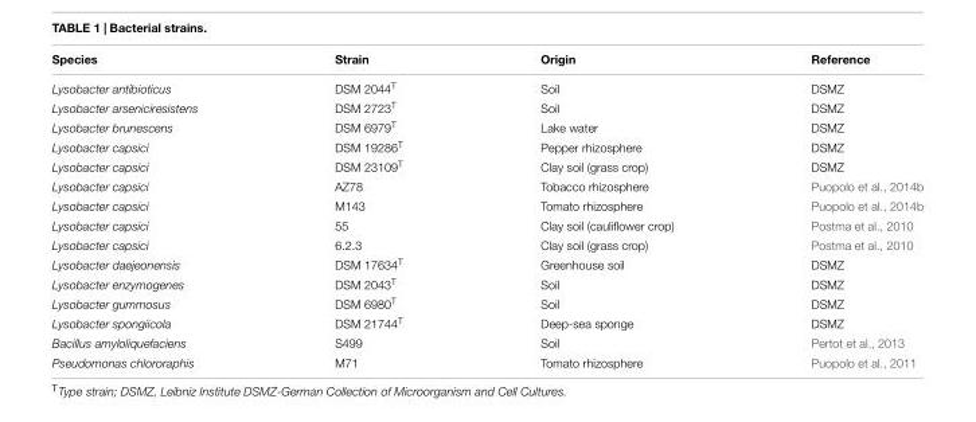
<table><thead><tr><td>Species</td><td>Strain</td><td>Origin</td><td>Reference</td></tr></thead><tbody><tr><td>Lysobacter antibioticus</td><td>DSM 2044<sup>T</sup></td><td>Soil</td><td>DSMZ</td></tr><tr><td>Lysobacter arseniciresistens</td><td>DSM 2723<sup>T</sup></td><td>Soil</td><td>DSMZ</td></tr><tr><td>Lysobacter brunescens</td><td>DSM 6979<sup>T</sup></td><td>Lake water</td><td>DSMZ</td></tr><tr><td>Lysobacter capsici</td><td>DSM 19286<sup>T</sup></td><td>Pepper rhizosphere</td><td>DSMZ</td></tr><tr><td>Lysobacter capsici</td><td>DSM 23109<sup>T</sup></td><td>Clay soil (grass crop)</td><td>DSMZ</td></tr><tr><td>Lysobacter capsici</td><td>AZ78</td><td>Tobacco rhizosphere</td><td>Puopolo et al., 2014b</td></tr><tr><td>Lysobacter capsici</td><td>M143</td><td>Tomato rhizosphere</td><td>Puopolo et al., 2014b</td></tr><tr><td>Lysobacter capsici</td><td>55</td><td>Clay soil (cauliflower crop)</td><td>Postma et al., 2010</td></tr><tr><td>Lysobacter capsici</td><td>6.2.3</td><td>Clay soil (grass crop)</td><td>Postma et al., 2010</td></tr><tr><td>Lysobacter daejeonensis</td><td>DSM 17634<sup>T</sup></td><td>Greenhouse soil</td><td>DSMZ</td></tr><tr><td>Lysobacter enzymogenes</td><td>DSM 2043<sup>T</sup></td><td>Soil</td><td>DSMZ</td></tr><tr><td>Lysobacter gummosus</td><td>DSM 6980<sup>T</sup></td><td>Soil</td><td>DSMZ</td></tr><tr><td>Lysobacter spongiicola</td><td>DSM 21744<sup>T</sup></td><td>Deep-sea sponge</td><td>DSMZ</td></tr><tr><td>Bacillus amyloliquefaciens</td><td>S499</td><td>Soil</td><td>Pertot et al., 2013</td></tr><tr><td>Pseudomonas chlororaphis</td><td>M71</td><td>Tomato rhizosphere</td><td>Puopolo et al., 2011</td></tr></tbody></table>